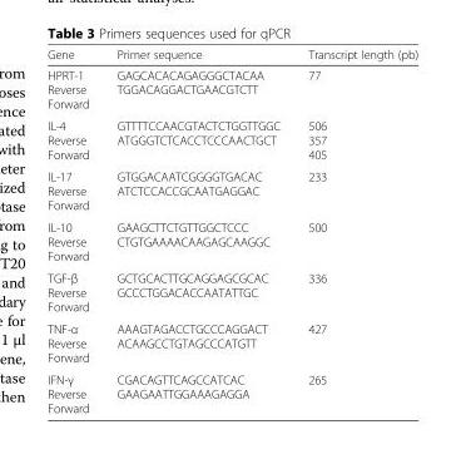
<table><thead><tr><td>Gene</td><td>Primer sequence</td><td>Transcript length (pb)</td></tr></thead><tbody><tr><td>HPRT-1 Reverse Forward</td><td>GAGCACACAGAGGGCTACAA TGGACAGGACTGAACGTCTT</td><td>77</td></tr><tr><td>IL-4 Reverse Forward</td><td>GTTTTCCAACGTACTCTGGTTGGC ATGGGTCTCACCTCCCAACTGCT</td><td>506 357 405</td></tr><tr><td>IL-17 Reverse Forward</td><td>GTGGACAATCGGGGTGACAC ATCTCCACCGCAATGAGGAC</td><td>233</td></tr><tr><td>IL-10 Reverse Forward</td><td>GAAGCTTCTGTTGGCTCCC CTGTGAAAACAAGAGCAAGGC</td><td>500</td></tr><tr><td>TGF-β Reverse Forward</td><td>GCTGCACTTGCAGGAGCGCAC GCCCTGGACACCAATATTGC</td><td>336</td></tr><tr><td>TNF-α Reverse Forward</td><td>AAAGTAGACCTGCCCAGGACT ACAAGCCTGTAGCCCATGTT</td><td>427</td></tr><tr><td>IFN-γ Reverse Forward</td><td>CGACAGTTCAGCCATCAC GAAGAATTGGAAAGAGGA</td><td>265</td></tr></tbody></table>